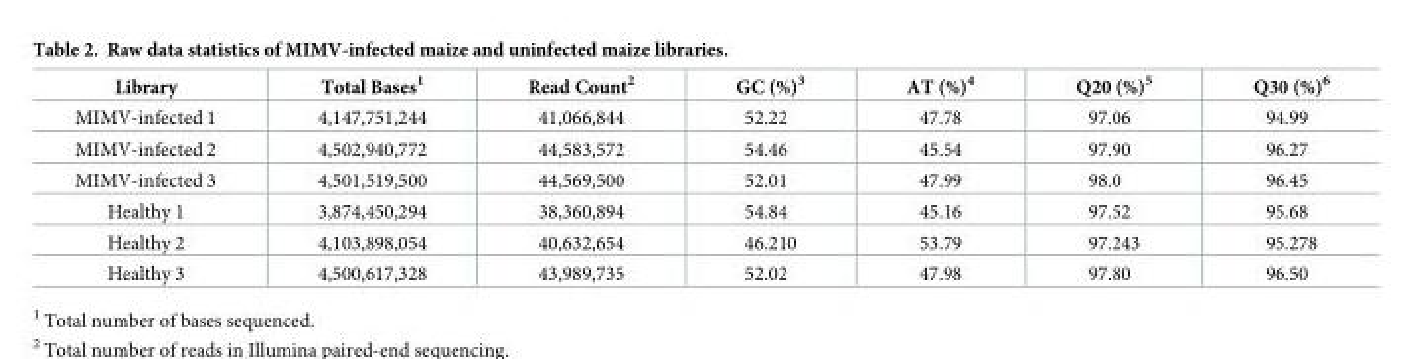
<table><thead><tr><td>Library</td><td>Total Bases<sup>1</sup></td><td>Read Count<sup>2</sup></td><td>GC (%)<sup>3</sup></td><td>AT (%)<sup>4</sup></td><td>Q20 (%)<sup>5</sup></td><td>Q30 (%)<sup>6</sup></td></tr></thead><tbody><tr><td>MIMV-infected 1</td><td>4,147,751,244</td><td>41,066,844</td><td>52.22</td><td>47.78</td><td>97.06</td><td>94.99</td></tr><tr><td>MIMV-infected 2</td><td>4,502,940,772</td><td>44,583,572</td><td>54.46</td><td>45.54</td><td>97.90</td><td>96.27</td></tr><tr><td>MIMV-infected 3</td><td>4,501,519,500</td><td>44,569,500</td><td>52.01</td><td>47.99</td><td>98.0</td><td>96.45</td></tr><tr><td>Healthy 1</td><td>3,874,450,294</td><td>38,360,894</td><td>54.84</td><td>45.16</td><td>97.52</td><td>95.68</td></tr><tr><td>Healthy 2</td><td>4,103,898,054</td><td>40,632,654</td><td>46.210</td><td>53.79</td><td>97.243</td><td>95.278</td></tr><tr><td>Healthy 3</td><td>4,500,617,328</td><td>43,989,735</td><td>52.02</td><td>47.98</td><td>97.80</td><td>96.50</td></tr></tbody></table>